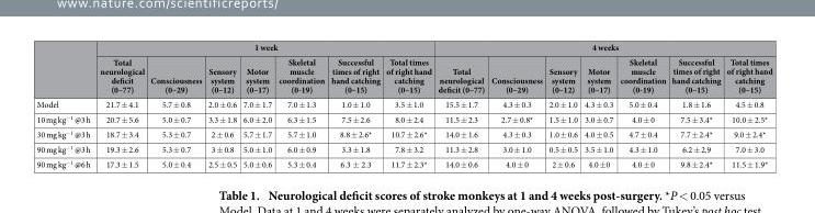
<table><thead><tr><td rowspan="2"></td><td colspan="7">1 week</td><td colspan="7">4 weeks</td></tr><tr><td>Total neurological deficit (0–77)</td><td>Consciousness (0–29)</td><td>Sensory system (0–12)</td><td>Motor system (0–17)</td><td>Skeletal muscle coordination (0-19)</td><td>Successful times of right hand catching (0–15)</td><td>Total times of right hand catching (0–15)</td><td>Total neurological deficit (0–77)</td><td>Consciousness (0–29)</td><td>Sensory system (0–12)</td><td>Motor system (0–17)</td><td>Skeletal muscle coordination (0-19)</td><td>Successful times of right hand catching (0–15)</td><td>Total times of right hand catching (0–15)</td></tr></thead><tbody><tr><td>Model</td><td>21.7 ± 4.1</td><td>5.7 ± 0.8</td><td>2.0 ± 0.6</td><td>7.0 ± 1.7</td><td>7.0 ± 1.3</td><td>1.0 ± 1.0</td><td>3.5 ± 1.0</td><td>15.5 ± 1.7</td><td>4.3 ± 0.3</td><td>2.0 ± 1.0</td><td>4.3 ± 0.3</td><td>5.0 ± 0.4</td><td>1.8 ± 1.6</td><td>4.5 ± 0.8</td></tr><tr><td>10 mg kg<sup>−1</sup> @3 h</td><td>20.7 ± 5.6</td><td>5.0 ± 0.7</td><td>3.3 ± 1.8</td><td>6.0 ± 2.0</td><td>6.3 ± 1.5</td><td>7.5 ± 2.6</td><td>8.0 ± 2.4</td><td>11.5 ± 2.3</td><td>2.7 ± 0.8*</td><td>1.5 ± 1.0</td><td>3.0 ± 0.7</td><td>4.0 ± 0</td><td>7.5 ± 3.4*</td><td>10.0 ± 2.5*</td></tr><tr><td>30 mg kg<sup>−1</sup> @3 h</td><td>18.7 ± 3.4</td><td>5.3 ± 0.7</td><td>2 ± 0.6</td><td>5.7 ± 1.7</td><td>5.7 ± 1.0</td><td>8.8 ± 2.6*</td><td>10.7 ± 2.6*</td><td>14.0 ± 1.6</td><td>4.3 ± 0.3</td><td>1.0 ± 0.6</td><td>4.0 ± 0.5</td><td>4.7 ± 0.4</td><td>7.7 ± 2.4*</td><td>9.0 ± 2.4*</td></tr><tr><td>90 mg kg<sup>−1</sup> @3 h</td><td>19.3 ± 2.6</td><td>5.3 ± 0.7</td><td>3 ± 0.8</td><td>5.0 ± 1.0</td><td>6.0 ± 0.9</td><td>3.3 ± 1.8</td><td>7.8 ± 3.2</td><td>11.3 ± 2.8</td><td>3.0 ± 1.0</td><td>0.5 ± 0.5</td><td>3.5 ± 1.0</td><td>4.3 ± 1.0</td><td>6.2 ± 2.9</td><td>7.0 ± 3.0</td></tr><tr><td>90 mg kg<sup>−1</sup> @6 h</td><td>17.3 ± 1.5</td><td>5.0 ± 0.4</td><td>2.5 ± 0.5</td><td>5.0 ± 0.6</td><td>5.3 ± 0.4</td><td>6.3 ± 2.3</td><td>11.7 ± 2.3*</td><td>14.0 ± 0.6</td><td>4.0 ± 0</td><td>2 ± 0.6</td><td>4.0 ± 0</td><td>4.0 ± 0</td><td>9.8 ± 2.4*</td><td>11.5 ± 1.9*</td></tr></tbody></table>